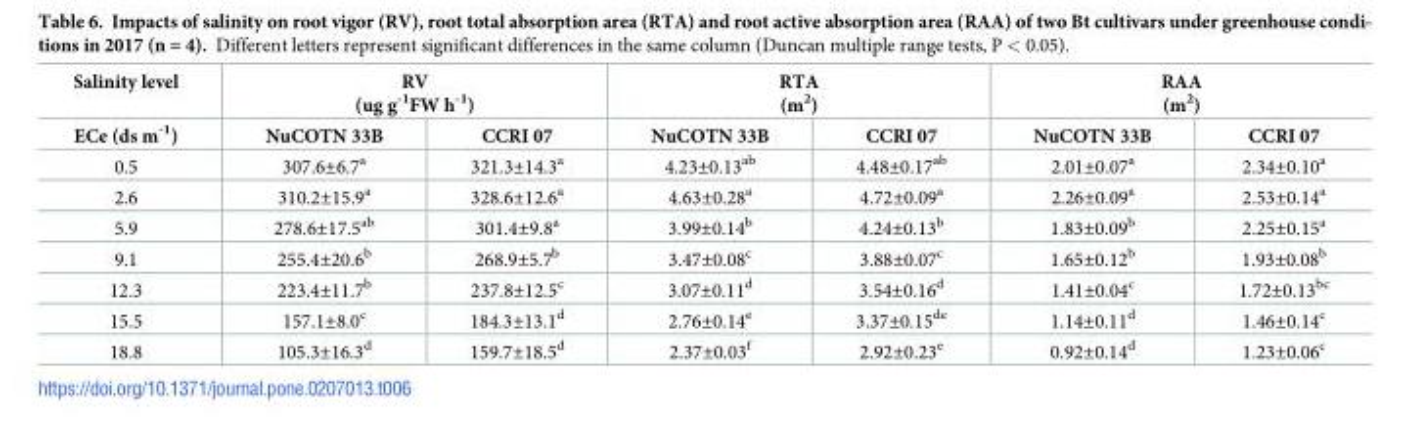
<table><thead><tr><td rowspan="2">Salinity level ECe (ds m<sup>-1</sup>)</td><td colspan="2">RV (ug g<sup>-1</sup>FW h<sup>-1</sup>)</td><td colspan="2">RTA (m<sup>2</sup>)</td><td colspan="2">RAA (m<sup>2</sup>)</td></tr><tr><td>NuCOTN 33B</td><td>CCRI 07</td><td>NuCOTN 33B</td><td>CCRI 07</td><td>NuCOTN 33B</td><td>CCRI 07</td></tr></thead><tbody><tr><td>0.5</td><td>307.6±6.7<sup>a</sup></td><td>321.3±14.3<sup>a</sup></td><td>4.23±0.13<sup>ab</sup></td><td>4.48±0.17<sup>ab</sup></td><td>2.01±0.07<sup>a</sup></td><td>2.34±0.10<sup>a</sup></td></tr><tr><td>2.6</td><td>310.2±15.9<sup>a</sup></td><td>328.6±12.6<sup>a</sup></td><td>4.63±0.28<sup>a</sup></td><td>4.72±0.09<sup>a</sup></td><td>2.26±0.09<sup>a</sup></td><td>2.53±0.14<sup>a</sup></td></tr><tr><td>5.9</td><td>278.6±17.5<sup>ab</sup></td><td>301.4±9.8<sup>a</sup></td><td>3.99±0.14<sup>b</sup></td><td>4.24±0.13<sup>b</sup></td><td>1.83±0.09<sup>b</sup></td><td>2.25±0.15<sup>a</sup></td></tr><tr><td>9.1</td><td>255.4±20.6<sup>b</sup></td><td>268.9±5.7<sup>b</sup></td><td>3.47±0.08<sup>c</sup></td><td>3.88±0.07<sup>c</sup></td><td>1.65±0.12<sup>b</sup></td><td>1.93±0.08<sup>b</sup></td></tr><tr><td>12.3</td><td>223.4±11.7<sup>b</sup></td><td>237.8±12.5<sup>c</sup></td><td>3.07±0.11<sup>d</sup></td><td>3.54±0.16<sup>d</sup></td><td>1.41±0.04<sup>c</sup></td><td>1.72±0.13<sup>bc</sup></td></tr><tr><td>15.5</td><td>157.1±8.0<sup>c</sup></td><td>184.3±13.1<sup>d</sup></td><td>2.76±0.14<sup>e</sup></td><td>3.37±0.15<sup>de</sup></td><td>1.14±0.11<sup>d</sup></td><td>1.46±0.14<sup>c</sup></td></tr><tr><td>18.8</td><td>105.3±16.3<sup>d</sup></td><td>159.7±18.5<sup>d</sup></td><td>2.37±0.03<sup>f</sup></td><td>2.92±0.23<sup>e</sup></td><td>0.92±0.14<sup>d</sup></td><td>1.23±0.06<sup>c</sup></td></tr></tbody></table>